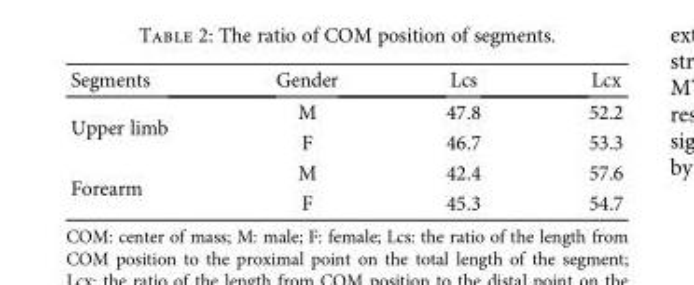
<table><thead><tr><td>Segments</td><td>Gender</td><td>Lcs</td><td>Lcx</td></tr></thead><tbody><tr><td rowspan="2">Upper limb</td><td>M</td><td>47.8</td><td>52.2</td></tr><tr><td>F</td><td>46.7</td><td>53.3</td></tr><tr><td rowspan="2">Forearm</td><td>M</td><td>42.4</td><td>57.6</td></tr><tr><td>F</td><td>45.3</td><td>54.7</td></tr></tbody></table>